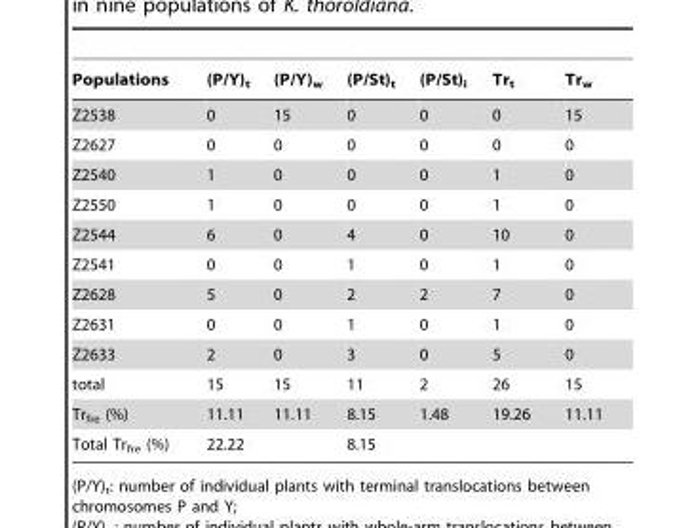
<table><thead><tr><td>Populations</td><td>(P/Y)<sub>t</sub></td><td>(P/Y)<sub>w</sub></td><td>(P/St)<sub>t</sub></td><td>(P/St)<sub>i</sub></td><td>Tr<sub>t</sub></td><td>Tr<sub>w</sub></td></tr></thead><tbody><tr><td>Z2538</td><td>0</td><td>15</td><td>0</td><td>0</td><td>0</td><td>15</td></tr><tr><td>Z2627</td><td>0</td><td>0</td><td>0</td><td>0</td><td>0</td><td>0</td></tr><tr><td>Z2540</td><td>1</td><td>0</td><td>0</td><td>0</td><td>1</td><td>0</td></tr><tr><td>Z2550</td><td>1</td><td>0</td><td>0</td><td>0</td><td>1</td><td>0</td></tr><tr><td>Z2544</td><td>6</td><td>0</td><td>4</td><td>0</td><td>10</td><td>0</td></tr><tr><td>Z2541</td><td>0</td><td>0</td><td>1</td><td>0</td><td>1</td><td>0</td></tr><tr><td>Z2628</td><td>5</td><td>0</td><td>2</td><td>2</td><td>7</td><td>0</td></tr><tr><td>Z2631</td><td>0</td><td>0</td><td>1</td><td>0</td><td>1</td><td>0</td></tr><tr><td>Z2633</td><td>2</td><td>0</td><td>3</td><td>0</td><td>5</td><td>0</td></tr><tr><td>total</td><td>15</td><td>15</td><td>11</td><td>2</td><td>26</td><td>15</td></tr><tr><td>Tr<sub>fre</sub> (%)</td><td>11.11</td><td>11.11</td><td>8.15</td><td>1.48</td><td>19.26</td><td>11.11</td></tr><tr><td>Total Tr<sub>fre</sub> (%)</td><td colspan="2">22.22</td><td colspan="2">8.15</td><td></td><td></td></tr></tbody></table>